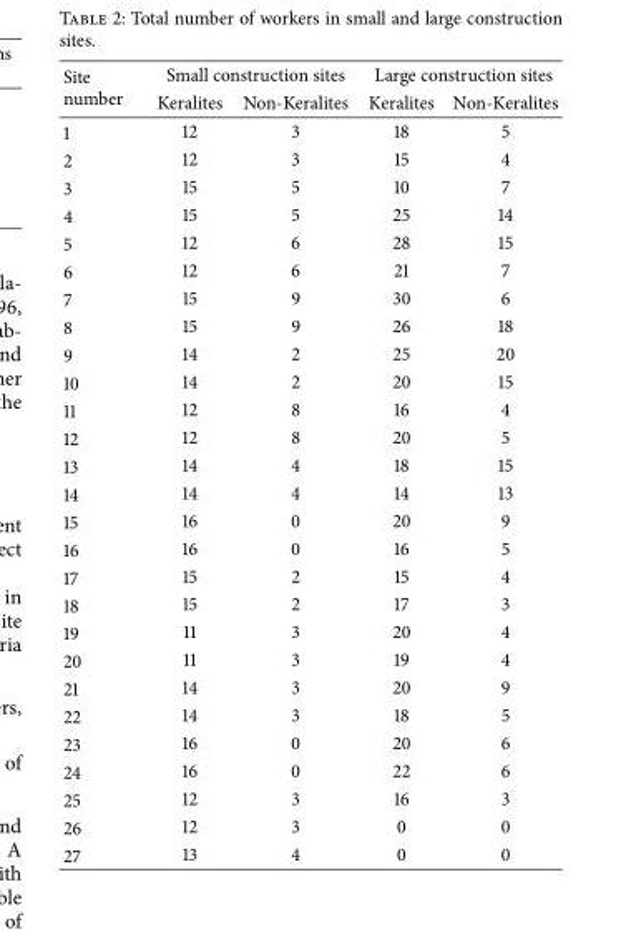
<table><thead><tr><td rowspan="2">Site number</td><td colspan="2">Small construction sites</td><td colspan="2">Large construction sites</td></tr><tr><td>Keralites</td><td>Non-Keralites</td><td>Keralites</td><td>Non-Keralites</td></tr></thead><tbody><tr><td>1</td><td>12</td><td>3</td><td>18</td><td>5</td></tr><tr><td>2</td><td>12</td><td>3</td><td>15</td><td>4</td></tr><tr><td>3</td><td>15</td><td>5</td><td>10</td><td>7</td></tr><tr><td>4</td><td>15</td><td>5</td><td>25</td><td>14</td></tr><tr><td>5</td><td>12</td><td>6</td><td>28</td><td>15</td></tr><tr><td>6</td><td>12</td><td>6</td><td>21</td><td>7</td></tr><tr><td>7</td><td>15</td><td>9</td><td>30</td><td>6</td></tr><tr><td>8</td><td>15</td><td>9</td><td>26</td><td>18</td></tr><tr><td>9</td><td>14</td><td>2</td><td>25</td><td>20</td></tr><tr><td>10</td><td>14</td><td>2</td><td>20</td><td>15</td></tr><tr><td>11</td><td>12</td><td>8</td><td>16</td><td>4</td></tr><tr><td>12</td><td>12</td><td>8</td><td>20</td><td>5</td></tr><tr><td>13</td><td>14</td><td>4</td><td>18</td><td>15</td></tr><tr><td>14</td><td>14</td><td>4</td><td>14</td><td>13</td></tr><tr><td>15</td><td>16</td><td>0</td><td>20</td><td>9</td></tr><tr><td>16</td><td>16</td><td>0</td><td>16</td><td>5</td></tr><tr><td>17</td><td>15</td><td>2</td><td>15</td><td>4</td></tr><tr><td>18</td><td>15</td><td>2</td><td>17</td><td>3</td></tr><tr><td>19</td><td>11</td><td>3</td><td>20</td><td>4</td></tr><tr><td>20</td><td>11</td><td>3</td><td>19</td><td>4</td></tr><tr><td>21</td><td>14</td><td>3</td><td>20</td><td>9</td></tr><tr><td>22</td><td>14</td><td>3</td><td>18</td><td>5</td></tr><tr><td>23</td><td>16</td><td>0</td><td>20</td><td>6</td></tr><tr><td>24</td><td>16</td><td>0</td><td>22</td><td>6</td></tr><tr><td>25</td><td>12</td><td>3</td><td>16</td><td>3</td></tr><tr><td>26</td><td>12</td><td>3</td><td>0</td><td>0</td></tr><tr><td>27</td><td>13</td><td>4</td><td>0</td><td>0</td></tr></tbody></table>